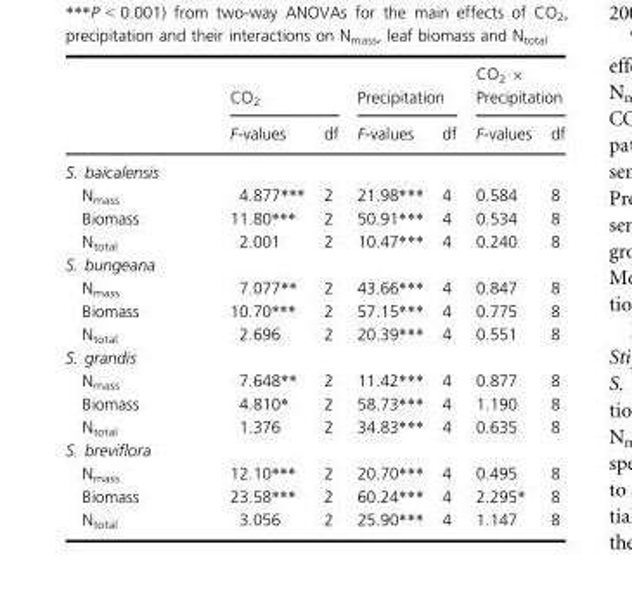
<table><thead><tr><td rowspan="2"></td><td colspan="2">CO<sub>2</sub></td><td colspan="2">Precipitation</td><td colspan="2">CO<sub>2</sub> × Precipitation</td></tr><tr><td>F-values</td><td>df</td><td>F-values</td><td>df</td><td>F-values</td><td>df</td></tr></thead><tbody><tr><td colspan="7">S. baicalensis</td></tr><tr><td>N<sub>mass</sub></td><td>4.877***</td><td>2</td><td>21.98***</td><td>4</td><td>0.584</td><td>8</td></tr><tr><td>Biomass</td><td>11.80***</td><td>2</td><td>50.91***</td><td>4</td><td>0.534</td><td>8</td></tr><tr><td>N<sub>total</sub></td><td>2.001</td><td>2</td><td>10.47***</td><td>4</td><td>0.240</td><td>8</td></tr><tr><td colspan="7">S. bungeana</td></tr><tr><td>N<sub>mass</sub></td><td>7.077**</td><td>2</td><td>43.66***</td><td>4</td><td>0.847</td><td>8</td></tr><tr><td>Biomass</td><td>10.70***</td><td>2</td><td>57.15***</td><td>4</td><td>0.775</td><td>8</td></tr><tr><td>N<sub>total</sub></td><td>2.696</td><td>2</td><td>20.39***</td><td>4</td><td>0.551</td><td>8</td></tr><tr><td colspan="7">S. grandis</td></tr><tr><td>N<sub>mass</sub></td><td>7.648**</td><td>2</td><td>11.42***</td><td>4</td><td>0.877</td><td>8</td></tr><tr><td>Biomass</td><td>4.810*</td><td>2</td><td>58.73***</td><td>4</td><td>1.190</td><td>8</td></tr><tr><td>N<sub>total</sub></td><td>1.376</td><td>2</td><td>34.83***</td><td>4</td><td>0.635</td><td>8</td></tr><tr><td colspan="7">S. breviflora</td></tr><tr><td>N<sub>mass</sub></td><td>12.10***</td><td>2</td><td>20.70***</td><td>4</td><td>0.495</td><td>8</td></tr><tr><td>Biomass</td><td>23.58***</td><td>2</td><td>60.24***</td><td>4</td><td>2.295*</td><td>8</td></tr><tr><td>N<sub>total</sub></td><td>3.056</td><td>2</td><td>25.90***</td><td>4</td><td>1.147</td><td>8</td></tr></tbody></table>